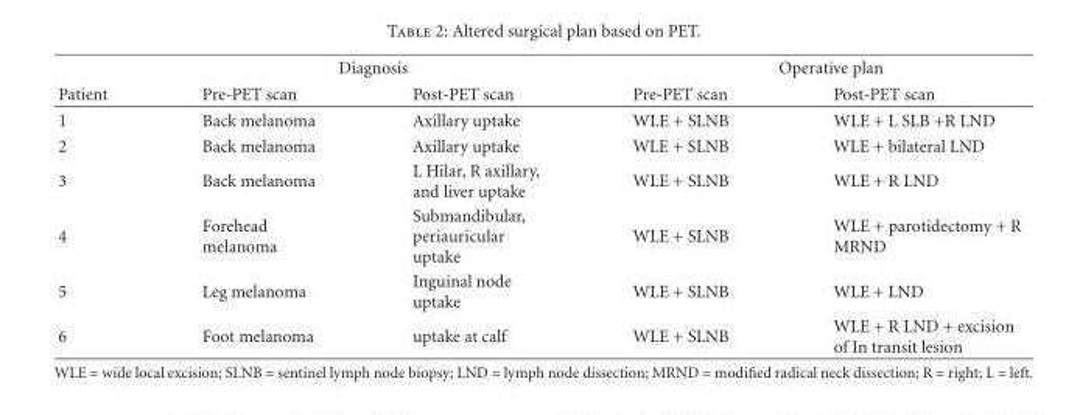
<table><thead><tr><td rowspan="2">Patient</td><td colspan="2">Diagnosis</td><td colspan="2">Operative plan</td></tr><tr><td>Pre-PET scan</td><td>Post-PET scan</td><td>Pre-PET scan</td><td>Post-PET scan</td></tr></thead><tbody><tr><td>1</td><td>Back melanoma</td><td>Axillary uptake</td><td>WLE + SLNB</td><td>WLE + L SLB +R LND</td></tr><tr><td>2</td><td>Back melanoma</td><td>Axillary uptake</td><td>WLE + SLNB</td><td>WLE + bilateral LND</td></tr><tr><td>3</td><td>Back melanoma</td><td>L Hilar, R axillary, and liver uptake</td><td>WLE + SLNB</td><td>WLE + R LND</td></tr><tr><td>4</td><td>Forehead melanoma</td><td>Submandibular, periauricular uptake</td><td>WLE + SLNB</td><td>WLE + parotidectomy + R MRND</td></tr><tr><td>5</td><td>Leg melanoma</td><td>Inguinal node uptake</td><td>WLE + SLNB</td><td>WLE + LND</td></tr><tr><td>6</td><td>Foot melanoma</td><td>uptake at calf</td><td>WLE + SLNB</td><td>WLE + R LND + excision of In transit lesion</td></tr></tbody></table>